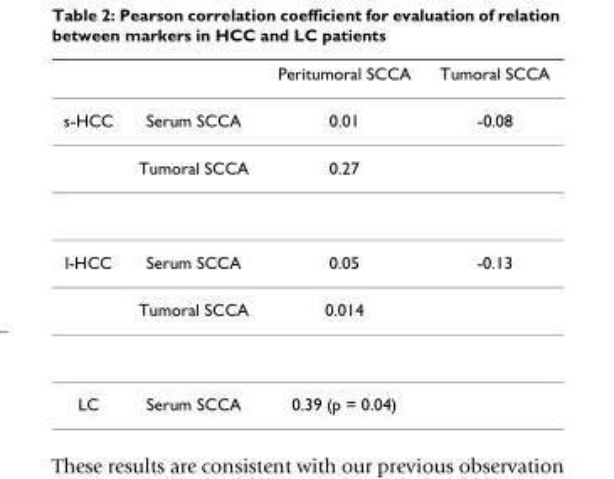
<table><thead><tr><td></td><td></td><td>Peritumoral SCCA</td><td>Tumoral SCCA</td></tr></thead><tbody><tr><td rowspan="2">s-HCC</td><td>Serum SCCA</td><td>0.01</td><td>-0.08</td></tr><tr><td>Tumoral SCCA</td><td>0.27</td><td></td></tr><tr><td rowspan="2">l-HCC</td><td>Serum SCCA</td><td>0.05</td><td>-0.13</td></tr><tr><td>Tumoral SCCA</td><td>0.014</td><td></td></tr><tr><td>LC</td><td>Serum SCCA</td><td>0.39 (p = 0.04)</td><td></td></tr></tbody></table>